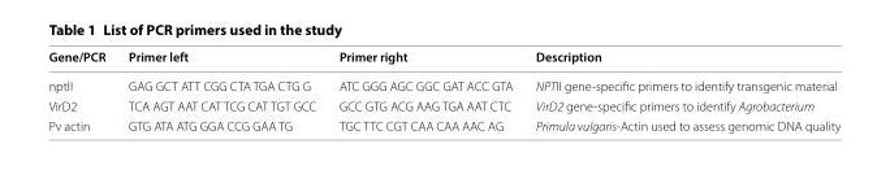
<table><thead><tr><td>Gene/PCR</td><td>Primer left</td><td>Primer right</td><td>Description</td></tr></thead><tbody><tr><td>nptII</td><td>GAG GCT ATT CGG CTA TGA CTG G</td><td>ATC GGG AGC GGC GAT ACC GTA</td><td>NPTII gene-specific primers to identify transgenic material</td></tr><tr><td>VirD2</td><td>TCA AGT AAT CAT TCG CAT TGT GCC</td><td>GCC GTG ACG AAG TGA AAT CTC</td><td>VirD2 gene-specific primers to identify Agrobacterium</td></tr><tr><td>Pv actin</td><td>GTG ATA ATG GGA CCG GAA TG</td><td>TGC TTC CGT CAA CAA AAC AG</td><td>Primula vulgaris-Actin used to assess genomic DNA quality</td></tr></tbody></table>